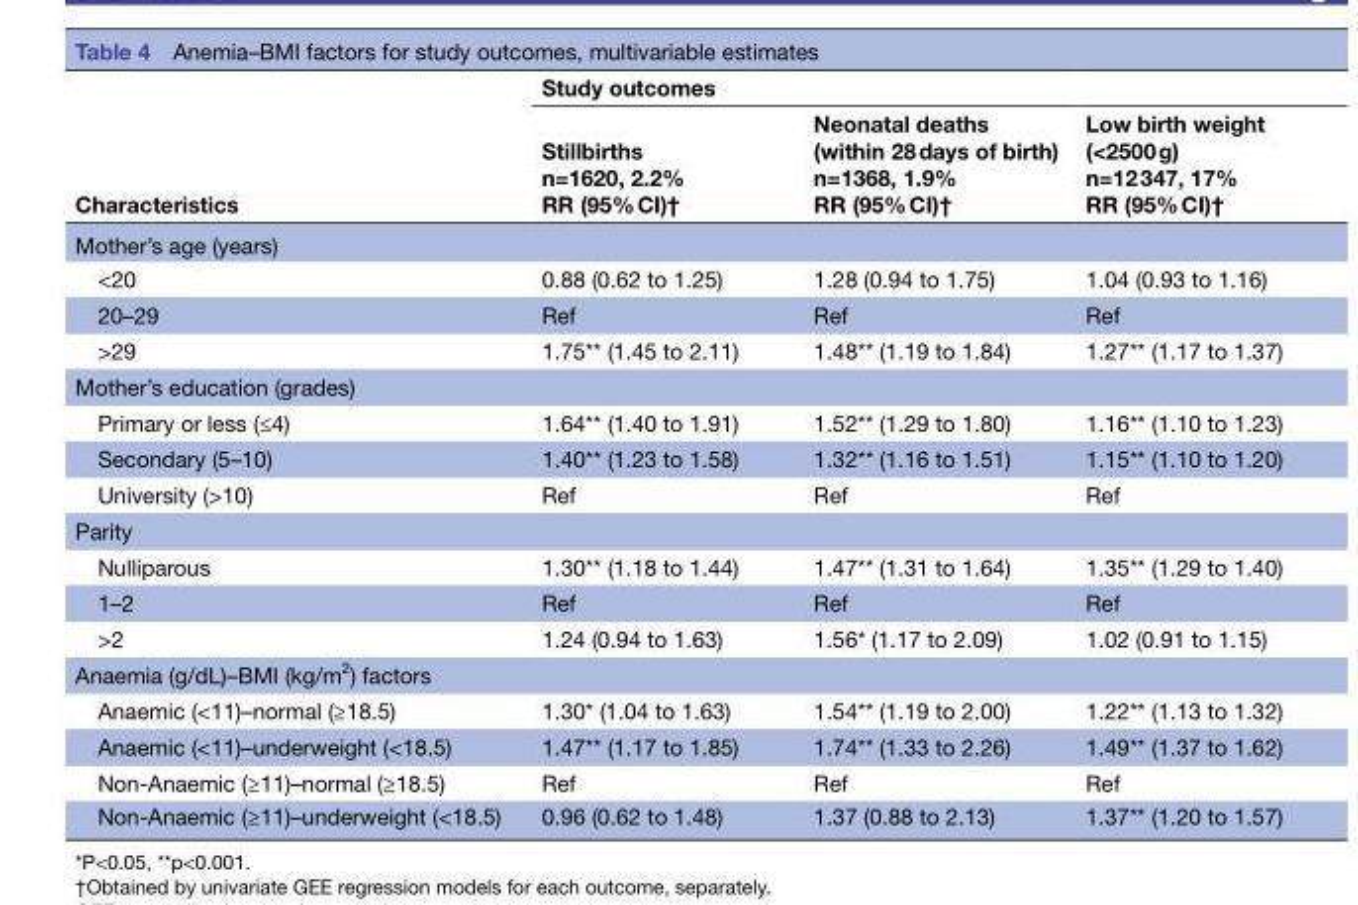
<table><thead><tr><td rowspan="2">Characteristics</td><td colspan="3">Study outcomes</td></tr><tr><td>Stillbirths n=1620, 2.2% RR (95% CI)†</td><td>Neonatal deaths (within 28 days of birth) n=1368, 1.9% RR (95% CI)†</td><td>Low birth weight (&lt;2500 g) n=12 347, 17% RR (95% CI)†</td></tr></thead><tbody><tr><td colspan="4">Mother’s age (years)</td></tr><tr><td>&lt;20</td><td>0.88 (0.62 to 1.25)</td><td>1.28 (0.94 to 1.75)</td><td>1.04 (0.93 to 1.16)</td></tr><tr><td>20–29</td><td>Ref</td><td>Ref</td><td>Ref</td></tr><tr><td>&gt;29</td><td>1.75** (1.45 to 2.11)</td><td>1.48** (1.19 to 1.84)</td><td>1.27** (1.17 to 1.37)</td></tr><tr><td colspan="4">Mother’s education (grades)</td></tr><tr><td>Primary or less (≤4)</td><td>1.64** (1.40 to 1.91)</td><td>1.52** (1.29 to 1.80)</td><td>1.16** (1.10 to 1.23)</td></tr><tr><td>Secondary (5–10)</td><td>1.40** (1.23 to 1.58)</td><td>1.32** (1.16 to 1.51)</td><td>1.15** (1.10 to 1.20)</td></tr><tr><td>University (&gt;10)</td><td>Ref</td><td>Ref</td><td>Ref</td></tr><tr><td colspan="4">Parity</td></tr><tr><td>Nulliparous</td><td>1.30** (1.18 to 1.44)</td><td>1.47** (1.31 to 1.64)</td><td>1.35** (1.29 to 1.40)</td></tr><tr><td>1–2</td><td>Ref</td><td>Ref</td><td>Ref</td></tr><tr><td>&gt;2</td><td>1.24 (0.94 to 1.63)</td><td>1.56* (1.17 to 2.09)</td><td>1.02 (0.91 to 1.15)</td></tr><tr><td colspan="4">Anaemia (g/dL)–BMI (kg/m<sup>2</sup>) factors</td></tr><tr><td>Anaemic (&lt;11)–normal (≥18.5)</td><td>1.30* (1.04 to 1.63)</td><td>1.54** (1.19 to 2.00)</td><td>1.22** (1.13 to 1.32)</td></tr><tr><td>Anaemic (&lt;11)–underweight (&lt;18.5)</td><td>1.47** (1.17 to 1.85)</td><td>1.74** (1.33 to 2.26)</td><td>1.49** (1.37 to 1.62)</td></tr><tr><td>Non-Anaemic (≥11)–normal (≥18.5)</td><td>Ref</td><td>Ref</td><td>Ref</td></tr><tr><td>Non-Anaemic (≥11)–underweight (&lt;18.5)</td><td>0.96 (0.62 to 1.48)</td><td>1.37 (0.88 to 2.13)</td><td>1.37** (1.20 to 1.57)</td></tr></tbody></table>